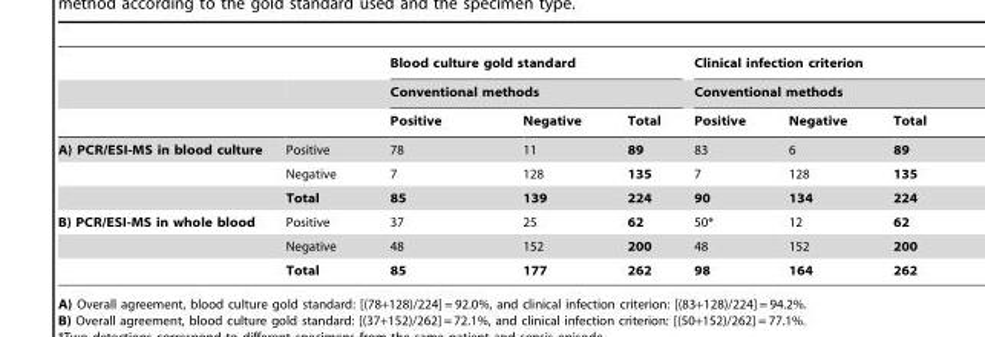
<table><thead><tr><td rowspan="3"></td><td rowspan="3"></td><td rowspan="2" colspan="3">Blood culture gold standard Conventional methods</td><td rowspan="2" colspan="3">Clinical infection criterion Conventional methods</td></tr><tr></tr><tr><td>Positive</td><td>Negative</td><td>Total</td><td>Positive</td><td>Negative</td><td>Total</td></tr></thead><tbody><tr><td rowspan="3">A) PCR/ESI-MS in blood culture</td><td>Positive</td><td>78</td><td>11</td><td>89</td><td>83</td><td>6</td><td>89</td></tr><tr><td>Negative</td><td>7</td><td>128</td><td>135</td><td>7</td><td>128</td><td>135</td></tr><tr><td>Total</td><td>85</td><td>139</td><td>224</td><td>90</td><td>134</td><td>224</td></tr><tr><td rowspan="3">B) PCR/ESI-MS in whole blood</td><td>Positive</td><td>37</td><td>25</td><td>62</td><td>50*</td><td>12</td><td>62</td></tr><tr><td>Negative</td><td>48</td><td>152</td><td>200</td><td>48</td><td>152</td><td>200</td></tr><tr><td>Total</td><td>85</td><td>177</td><td>262</td><td>98</td><td>164</td><td>262</td></tr></tbody></table>